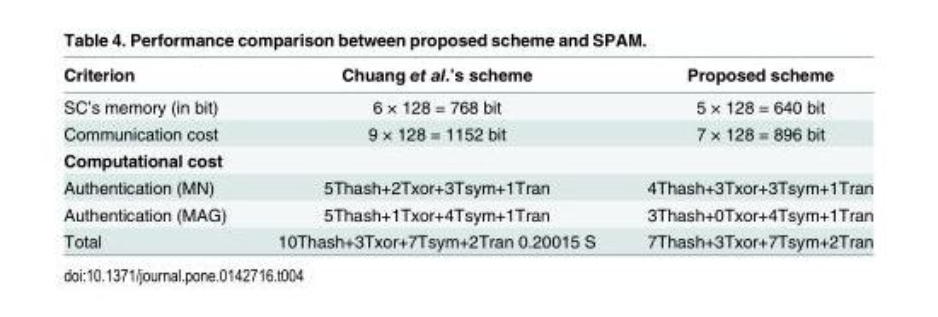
<table><thead><tr><td>Criterion</td><td>Chuang et al.’s scheme</td><td>Proposed scheme</td></tr></thead><tbody><tr><td>SC’s memory (in bit)</td><td>6 × 128 = 768 bit</td><td>5 × 128 = 640 bit</td></tr><tr><td>Communication cost</td><td>9 × 128 = 1152 bit</td><td>7 × 128 = 896 bit</td></tr><tr><td colspan="3">Computational cost</td></tr><tr><td>Authentication (MN)</td><td>5Thash+2Txor+3Tsym+1Tran</td><td>4Thash+3Txor+3Tsym+1Tran</td></tr><tr><td>Authentication (MAG)</td><td>5Thash+1Txor+4Tsym+1Tran</td><td>3Thash+0Txor+4Tsym+1Tran</td></tr><tr><td>Total</td><td>10Thash+3Txor+7Tsym+2Tran 0.20015 S</td><td>7Thash+3Txor+7Tsym+2Tran</td></tr></tbody></table>